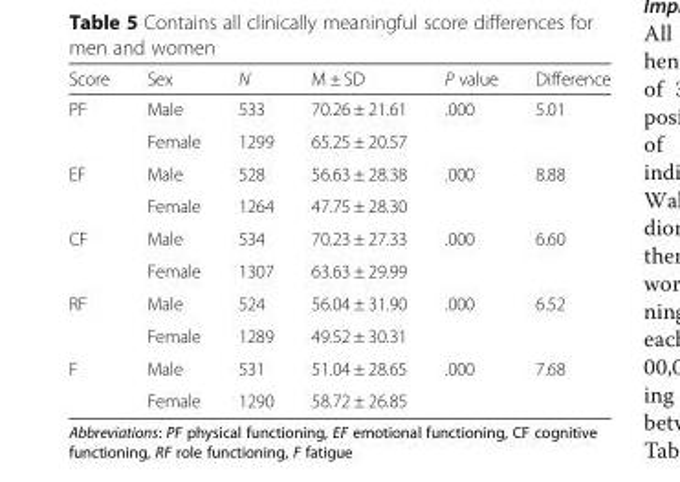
<table><thead><tr><td>Score</td><td>Sex</td><td>N</td><td>M ± SD</td><td>P value</td><td>Difference</td></tr></thead><tbody><tr><td rowspan="2">PF</td><td>Male</td><td>533</td><td>70.26 ± 21.61</td><td rowspan="2">.000</td><td rowspan="2">5.01</td></tr><tr><td>Female</td><td>1299</td><td>65.25 ± 20.57</td></tr><tr><td rowspan="2">EF</td><td>Male</td><td>528</td><td>56.63 ± 28.38</td><td rowspan="2">.000</td><td rowspan="2">8.88</td></tr><tr><td>Female</td><td>1264</td><td>47.75 ± 28.30</td></tr><tr><td rowspan="2">CF</td><td>Male</td><td>534</td><td>70.23 ± 27.33</td><td rowspan="2">.000</td><td rowspan="2">6.60</td></tr><tr><td>Female</td><td>1307</td><td>63.63 ± 29.99</td></tr><tr><td rowspan="2">RF</td><td>Male</td><td>524</td><td>56.04 ± 31.90</td><td rowspan="2">.000</td><td rowspan="2">6.52</td></tr><tr><td>Female</td><td>1289</td><td>49.52 ± 30.31</td></tr><tr><td rowspan="2">F</td><td>Male</td><td>531</td><td>51.04 ± 28.65</td><td rowspan="2">.000</td><td rowspan="2">7.68</td></tr><tr><td>Female</td><td>1290</td><td>58.72 ± 26.85</td></tr></tbody></table>